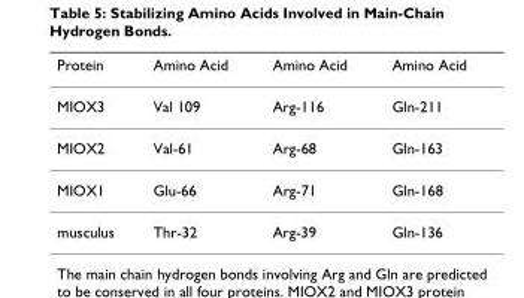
<table><thead><tr><td>Protein</td><td>Amino Acid</td><td>Amino Acid</td><td>Amino Acid</td></tr></thead><tbody><tr><td>MIOX3</td><td>Val 109</td><td>Arg-116</td><td>Gln-211</td></tr><tr><td>MIOX2</td><td>Val-61</td><td>Arg-68</td><td>Gln-163</td></tr><tr><td>MIOX1</td><td>Glu-66</td><td>Arg-71</td><td>Gln-168</td></tr><tr><td>musculus</td><td>Thr-32</td><td>Arg-39</td><td>Gln-136</td></tr></tbody></table>